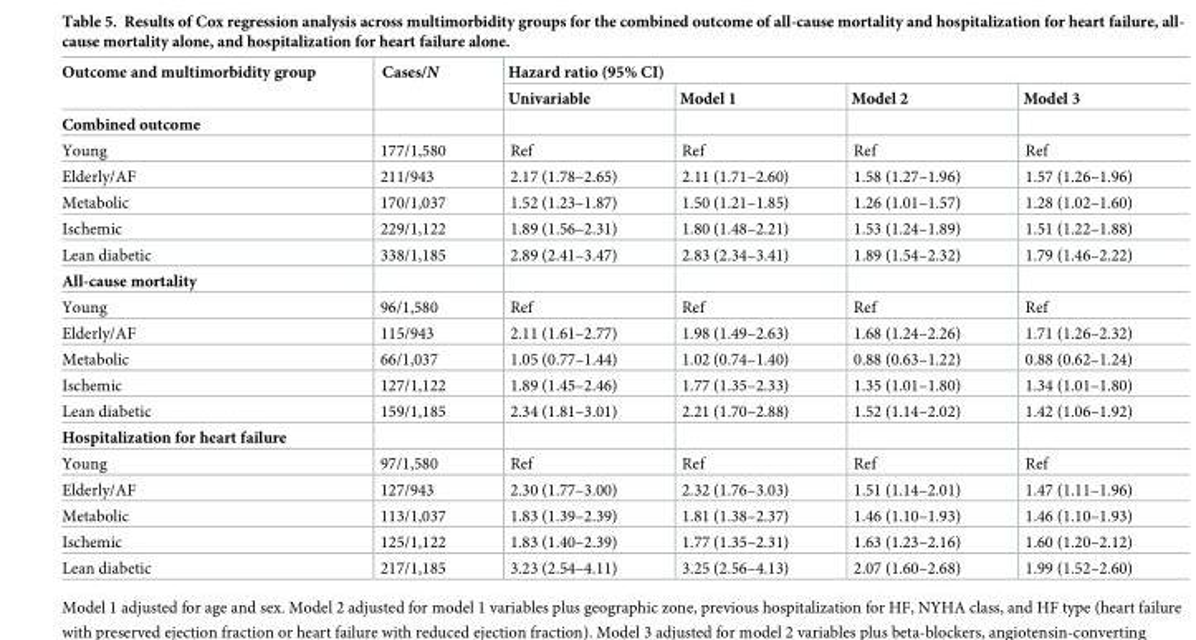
<table><thead><tr><td rowspan="2">Outcome and multimorbidity group</td><td rowspan="2">Cases/N</td><td colspan="4">Hazard ratio (95% CI)</td></tr><tr><td>Univariable</td><td>Model 1</td><td>Model 2</td><td>Model 3</td></tr></thead><tbody><tr><td colspan="6">Combined outcome</td></tr><tr><td>Young</td><td>177/1,580</td><td>Ref</td><td>Ref</td><td>Ref</td><td>Ref</td></tr><tr><td>Elderly/AF</td><td>211/943</td><td>2.17 (1.78–2.65)</td><td>2.11 (1.71–2.60)</td><td>1.58 (1.27–1.96)</td><td>1.57 (1.26–1.96)</td></tr><tr><td>Metabolic</td><td>170/1,037</td><td>1.52 (1.23–1.87)</td><td>1.50 (1.21–1.85)</td><td>1.26 (1.01–1.57)</td><td>1.28 (1.02–1.60)</td></tr><tr><td>Ischemic</td><td>229/1,122</td><td>1.89 (1.56–2.31)</td><td>1.80 (1.48–2.21)</td><td>1.53 (1.24–1.89)</td><td>1.51 (1.22–1.88)</td></tr><tr><td>Lean diabetic</td><td>338/1,185</td><td>2.89 (2.41–3.47)</td><td>2.83 (2.34–3.41)</td><td>1.89 (1.54–2.32)</td><td>1.79 (1.46–2.22)</td></tr><tr><td colspan="6">All-cause mortality</td></tr><tr><td>Young</td><td>96/1,580</td><td>Ref</td><td>Ref</td><td>Ref</td><td>Ref</td></tr><tr><td>Elderly/AF</td><td>115/943</td><td>2.11 (1.61–2.77)</td><td>1.98 (1.49–2.63)</td><td>1.68 (1.24–2.26)</td><td>1.71 (1.26–2.32)</td></tr><tr><td>Metabolic</td><td>66/1,037</td><td>1.05 (0.77–1.44)</td><td>1.02 (0.74–1.40)</td><td>0.88 (0.63–1.22)</td><td>0.88 (0.62–1.24)</td></tr><tr><td>Ischemic</td><td>127/1,122</td><td>1.89 (1.45–2.46)</td><td>1.77 (1.35–2.33)</td><td>1.35 (1.01–1.80)</td><td>1.34 (1.01–1.80)</td></tr><tr><td>Lean diabetic</td><td>159/1,185</td><td>2.34 (1.81–3.01)</td><td>2.21 (1.70–2.88)</td><td>1.52 (1.14–2.02)</td><td>1.42 (1.06–1.92)</td></tr><tr><td colspan="6">Hospitalization for heart failure</td></tr><tr><td>Young</td><td>97/1,580</td><td>Ref</td><td>Ref</td><td>Ref</td><td>Ref</td></tr><tr><td>Elderly/AF</td><td>127/943</td><td>2.30 (1.77–3.00)</td><td>2.32 (1.76–3.03)</td><td>1.51 (1.14–2.01)</td><td>1.47 (1.11–1.96)</td></tr><tr><td>Metabolic</td><td>113/1,037</td><td>1.83 (1.39–2.39)</td><td>1.81 (1.38–2.37)</td><td>1.46 (1.10–1.93)</td><td>1.46 (1.10–1.93)</td></tr><tr><td>Ischemic</td><td>125/1,122</td><td>1.83 (1.40–2.39)</td><td>1.77 (1.35–2.31)</td><td>1.63 (1.23–2.16)</td><td>1.60 (1.20–2.12)</td></tr><tr><td>Lean diabetic</td><td>217/1,185</td><td>3.23 (2.54–4.11)</td><td>3.25 (2.56–4.13)</td><td>2.07 (1.60–2.68)</td><td>1.99 (1.52–2.60)</td></tr></tbody></table>